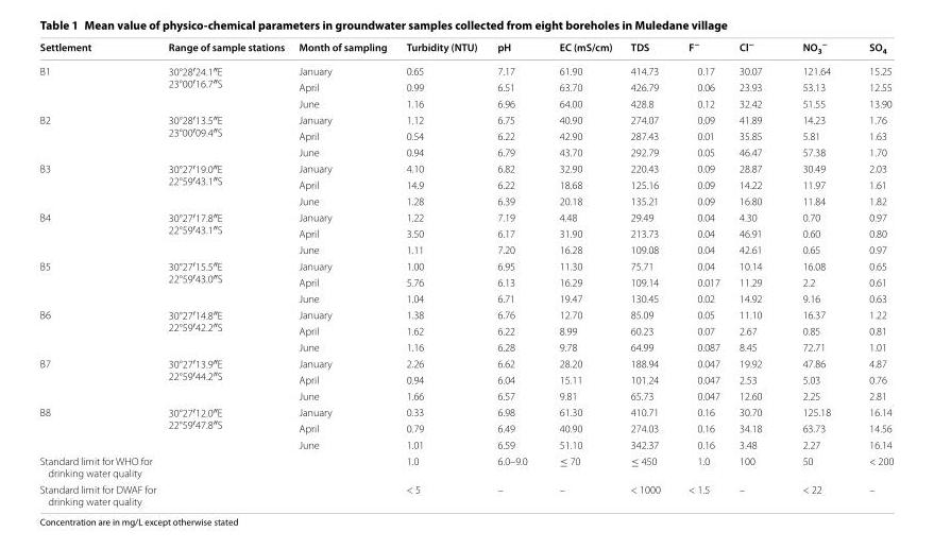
<table><thead><tr><td>Settlement</td><td>Range of sample stations</td><td>Month of sampling</td><td>Turbidity (NTU)</td><td>pH</td><td>EC (mS/cm)</td><td>TDS</td><td>F<sup>−</sup></td><td>Cl<sup>−</sup></td><td>NO<sub>3</sub> <sup>−</sup></td><td>SO<sub>4</sub></td></tr></thead><tbody><tr><td rowspan="3">B1</td><td rowspan="3">30°28′24.1″E 23°00′16.7″S</td><td>January</td><td>0.65</td><td>7.17</td><td>61.90</td><td>414.73</td><td>0.17</td><td>30.07</td><td>121.64</td><td>15.25</td></tr><tr><td>April</td><td>0.99</td><td>6.51</td><td>63.70</td><td>426.79</td><td>0.06</td><td>23.93</td><td>53.13</td><td>12.55</td></tr><tr><td>June</td><td>1.16</td><td>6.96</td><td>64.00</td><td>428.8</td><td>0.12</td><td>32.42</td><td>51.55</td><td>13.90</td></tr><tr><td rowspan="3">B2</td><td rowspan="3">30°28′13.5″E 23°00′09.4″S</td><td>January</td><td>1.12</td><td>6.75</td><td>40.90</td><td>274.07</td><td>0.09</td><td>41.89</td><td>14.23</td><td>1.76</td></tr><tr><td>April</td><td>0.54</td><td>6.22</td><td>42.90</td><td>287.43</td><td>0.01</td><td>35.85</td><td>5.81</td><td>1.63</td></tr><tr><td>June</td><td>0.94</td><td>6.79</td><td>43.70</td><td>292.79</td><td>0.05</td><td>46.47</td><td>57.38</td><td>1.70</td></tr><tr><td rowspan="3">B3</td><td rowspan="3">30°27′19.0″E 22°59′43.1″S</td><td>January</td><td>4.10</td><td>6.82</td><td>32.90</td><td>220.43</td><td>0.09</td><td>28.87</td><td>30.49</td><td>2.03</td></tr><tr><td>April</td><td>14.9</td><td>6.22</td><td>18.68</td><td>125.16</td><td>0.09</td><td>14.22</td><td>11.97</td><td>1.61</td></tr><tr><td>June</td><td>1.28</td><td>6.39</td><td>20.18</td><td>135.21</td><td>0.09</td><td>16.80</td><td>11.84</td><td>1.82</td></tr><tr><td rowspan="3">B4</td><td rowspan="3">30°27′17.8″E 22°59′43.1″S</td><td>January</td><td>1.22</td><td>7.19</td><td>4.48</td><td>29.49</td><td>0.04</td><td>4.30</td><td>0.70</td><td>0.97</td></tr><tr><td>April</td><td>3.50</td><td>6.17</td><td>31.90</td><td>213.73</td><td>0.04</td><td>46.91</td><td>0.60</td><td>0.80</td></tr><tr><td>June</td><td>1.11</td><td>7.20</td><td>16.28</td><td>109.08</td><td>0.04</td><td>42.61</td><td>0.65</td><td>0.97</td></tr><tr><td rowspan="3">B5</td><td rowspan="3">30°27′15.5″E 22°59′43.0″S</td><td>January</td><td>1.00</td><td>6.95</td><td>11.30</td><td>75.71</td><td>0.04</td><td>10.14</td><td>16.08</td><td>0.65</td></tr><tr><td>April</td><td>5.76</td><td>6.13</td><td>16.29</td><td>109.14</td><td>0.017</td><td>11.29</td><td>2.2</td><td>0.61</td></tr><tr><td>June</td><td>1.04</td><td>6.71</td><td>19.47</td><td>130.45</td><td>0.02</td><td>14.92</td><td>9.16</td><td>0.63</td></tr><tr><td rowspan="3">B6</td><td rowspan="3">30°27′14.8″E 22°59′42.2″S</td><td>January</td><td>1.38</td><td>6.76</td><td>12.70</td><td>85.09</td><td>0.05</td><td>11.10</td><td>16.37</td><td>1.22</td></tr><tr><td>April</td><td>1.62</td><td>6.22</td><td>8.99</td><td>60.23</td><td>0.07</td><td>2.67</td><td>0.85</td><td>0.81</td></tr><tr><td>June</td><td>1.16</td><td>6.28</td><td>9.78</td><td>64.99</td><td>0.087</td><td>8.45</td><td>72.71</td><td>1.01</td></tr><tr><td rowspan="3">B7</td><td rowspan="3">30°27′13.9″E 22°59′44.2″S</td><td>January</td><td>2.26</td><td>6.62</td><td>28.20</td><td>188.94</td><td>0.047</td><td>19.92</td><td>47.86</td><td>4.87</td></tr><tr><td>April</td><td>0.94</td><td>6.04</td><td>15.11</td><td>101.24</td><td>0.047</td><td>2.53</td><td>5.03</td><td>0.76</td></tr><tr><td>June</td><td>1.66</td><td>6.57</td><td>9.81</td><td>65.73</td><td>0.047</td><td>12.60</td><td>2.25</td><td>2.81</td></tr><tr><td rowspan="3">B8</td><td rowspan="3">30°27′12.0″E 22°59′47.8″S</td><td>January</td><td>0.33</td><td>6.98</td><td>61.30</td><td>410.71</td><td>0.16</td><td>30.70</td><td>125.18</td><td>16.14</td></tr><tr><td>April</td><td>0.79</td><td>6.49</td><td>40.90</td><td>274.03</td><td>0.16</td><td>34.18</td><td>63.73</td><td>14.56</td></tr><tr><td>June</td><td>1.01</td><td>6.59</td><td>51.10</td><td>342.37</td><td>0.16</td><td>3.48</td><td>2.27</td><td>16.14</td></tr><tr><td>Standard limit for WHO for drinking water quality</td><td></td><td></td><td>1.0</td><td>6.0–9.0</td><td>≤ 70</td><td>≤ 450</td><td>1.0</td><td>100</td><td>50</td><td>&lt; 200</td></tr><tr><td>Standard limit for DWAF for drinking water quality</td><td></td><td></td><td>&lt; 5</td><td>–</td><td>–</td><td>&lt; 1000</td><td>&lt; 1.5</td><td>–</td><td>&lt; 22</td><td>–</td></tr></tbody></table>